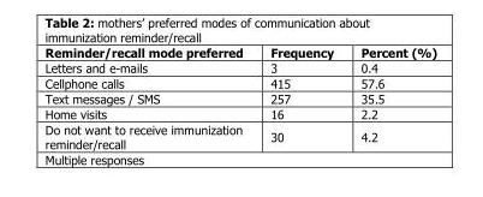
<table><thead><tr><td>Reminder/recall mode preferred</td><td>Frequency</td><td>Percent (%)</td></tr></thead><tbody><tr><td>Letters and e-mails</td><td>3</td><td>0.4</td></tr><tr><td>Cellphone calls</td><td>415</td><td>57.6</td></tr><tr><td>Text messages / SMS</td><td>257</td><td>35.5</td></tr><tr><td>Home visits</td><td>16</td><td>2.2</td></tr><tr><td>Do not want to receive immunization reminder/recall</td><td>30</td><td>4.2</td></tr></tbody></table>